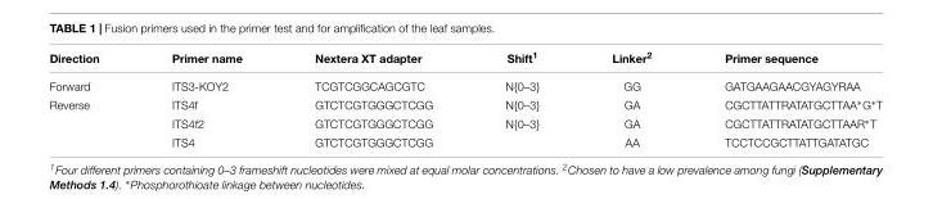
<table><thead><tr><td>Direction</td><td>Primer name</td><td>Nextera XT adapter</td><td>Shift<sup>1</sup></td><td>Linker<sup>2</sup></td><td>Primer sequence</td></tr></thead><tbody><tr><td>Forward</td><td>ITS3-KOY2</td><td>TCGTCGGCAGCGTC</td><td>N{0–3}</td><td>GG</td><td>GATGAAGAACGYAGYRAA</td></tr><tr><td rowspan="3">Reverse</td><td>ITS4f</td><td>GTCTCGTGGGCTCGG</td><td>N{0–3}</td><td>GA</td><td>CGCTTATTRATATGCTTAA∗G∗T</td></tr><tr><td>ITS4f2</td><td>GTCTCGTGGGCTCGG</td><td>N{0–3}</td><td>GA</td><td>CGCTTATTRATATGCTTAAR∗T</td></tr><tr><td>ITS4</td><td>GTCTCGTGGGCTCGG</td><td></td><td>AA</td><td>TCCTCCGCTTATTGATATGC</td></tr></tbody></table>